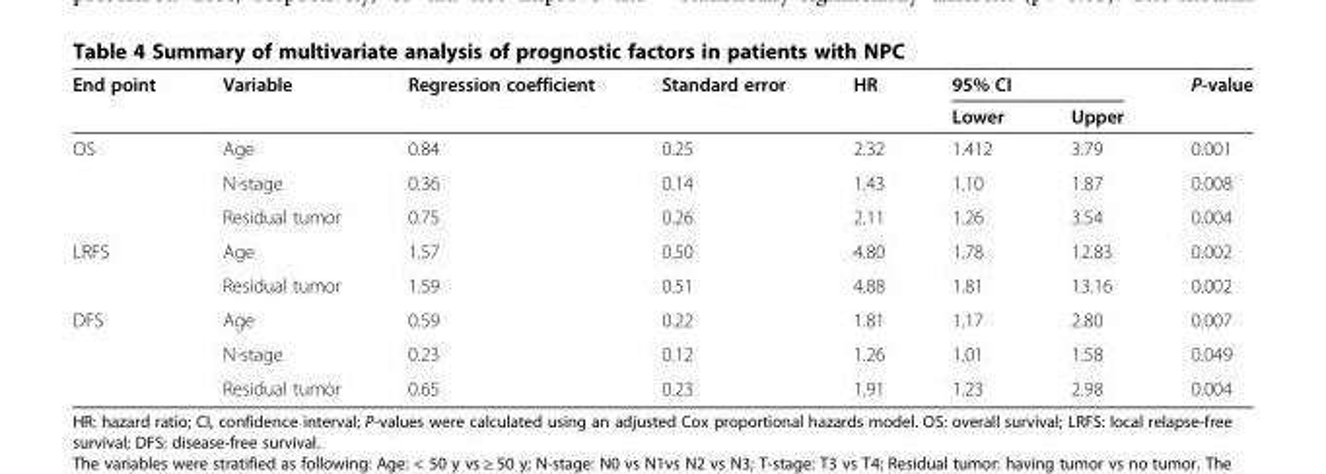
<table><thead><tr><td rowspan="2">End point</td><td rowspan="2">Variable</td><td rowspan="2">Regression coefficient</td><td rowspan="2">Standard error</td><td rowspan="2">HR</td><td colspan="2">95% CI</td><td rowspan="2">P-value</td></tr><tr><td>Lower</td><td>Upper</td></tr></thead><tbody><tr><td rowspan="3">OS</td><td>Age</td><td>0.84</td><td>0.25</td><td>2.32</td><td>1.412</td><td>3.79</td><td>0.001</td></tr><tr><td>N-stage</td><td>0.36</td><td>0.14</td><td>1.43</td><td>1.10</td><td>1.87</td><td>0.008</td></tr><tr><td>Residual tumor</td><td>0.75</td><td>0.26</td><td>2.11</td><td>1.26</td><td>3.54</td><td>0.004</td></tr><tr><td rowspan="2">LRFS</td><td>Age</td><td>1.57</td><td>0.50</td><td>4.80</td><td>1.78</td><td>12.83</td><td>0.002</td></tr><tr><td>Residual tumor</td><td>1.59</td><td>0.51</td><td>4.88</td><td>1.81</td><td>13.16</td><td>0.002</td></tr><tr><td rowspan="3">DFS</td><td>Age</td><td>0.59</td><td>0.22</td><td>1.81</td><td>1.17</td><td>2.80</td><td>0.007</td></tr><tr><td>N-stage</td><td>0.23</td><td>0.12</td><td>1.26</td><td>1.01</td><td>1.58</td><td>0.049</td></tr><tr><td>Residual tumor</td><td>0.65</td><td>0.23</td><td>1.91</td><td>1.23</td><td>2.98</td><td>0.004</td></tr></tbody></table>